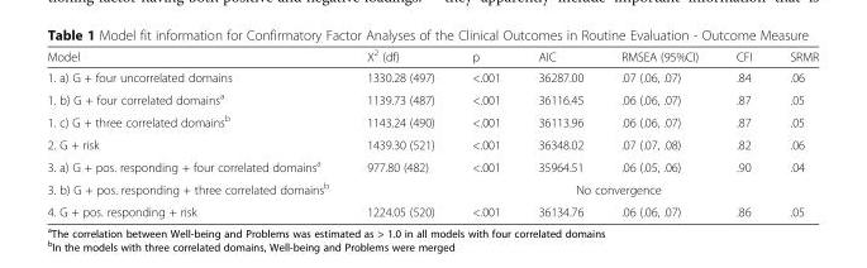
<table><thead><tr><td>Model</td><td>X<sup>2</sup> (df)</td><td>p</td><td>AIC</td><td>RMSEA (95%CI)</td><td>CFI</td><td>SRMR</td></tr></thead><tbody><tr><td>1. a) G + four uncorrelated domains</td><td>1330.28 (497)</td><td>&lt;.001</td><td>36287.00</td><td>.07 (.06, .07)</td><td>.84</td><td>.06</td></tr><tr><td>1. b) G + four correlated domains<sup>a</sup></td><td>1139.73 (487)</td><td>&lt;.001</td><td>36116.45</td><td>.06 (.06, .07)</td><td>.87</td><td>.05</td></tr><tr><td>1. c) G + three correlated domains<sup>b</sup></td><td>1143.24 (490)</td><td>&lt;.001</td><td>36113.96</td><td>.06 (.06, .07)</td><td>.87</td><td>.05</td></tr><tr><td>2. G + risk</td><td>1439.30 (521)</td><td>&lt;.001</td><td>36348.02</td><td>.07 (.07, .08)</td><td>.82</td><td>.06</td></tr><tr><td>3. a) G + pos. responding + four correlated domains<sup>a</sup></td><td>977.80 (482)</td><td>&lt;.001</td><td>35964.51</td><td>.06 (.05, .06)</td><td>.90</td><td>.04</td></tr><tr><td>3. b) G + pos. responding + three correlated domains<sup>b</sup></td><td></td><td></td><td colspan="2">No convergence</td><td></td><td></td></tr><tr><td>4. G + pos. responding + risk</td><td>1224.05 (520)</td><td>&lt;.001</td><td>36134.76</td><td>.06 (.06, .07)</td><td>.86</td><td>.05</td></tr></tbody></table>